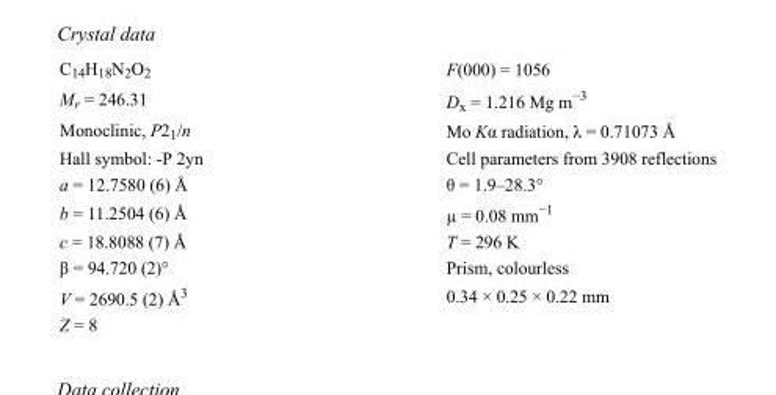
<table><tbody><tr><td>C<sub>14</sub>H<sub>18</sub>N<sub>2</sub>O<sub>2</sub></td><td>F(000) = 1056</td></tr><tr><td>M<sub>r</sub> = 246.31</td><td>D<sub>x</sub> = 1.216 Mg m<sup>−3</sup></td></tr><tr><td>Monoclinic, P2<sub>1</sub>/n</td><td>Mo Kα radiation, λ = 0.71073 Å</td></tr><tr><td>Hall symbol: -P 2yn</td><td>Cell parameters from 3908 reflections</td></tr><tr><td>a = 12.7580 (6) Å</td><td>θ = 1.9–28.3°</td></tr><tr><td>b = 11.2504 (6) Å</td><td>µ = 0.08 mm<sup>−1</sup></td></tr><tr><td>c = 18.8088 (7) Å</td><td>T = 296 K</td></tr><tr><td>β = 94.720 (2)°</td><td>Prism, colourless</td></tr><tr><td>V = 2690.5 (2) Å<sup>3</sup></td><td>0.34 × 0.25 × 0.22 mm</td></tr><tr><td>Z = 8</td><td></td></tr></tbody></table>